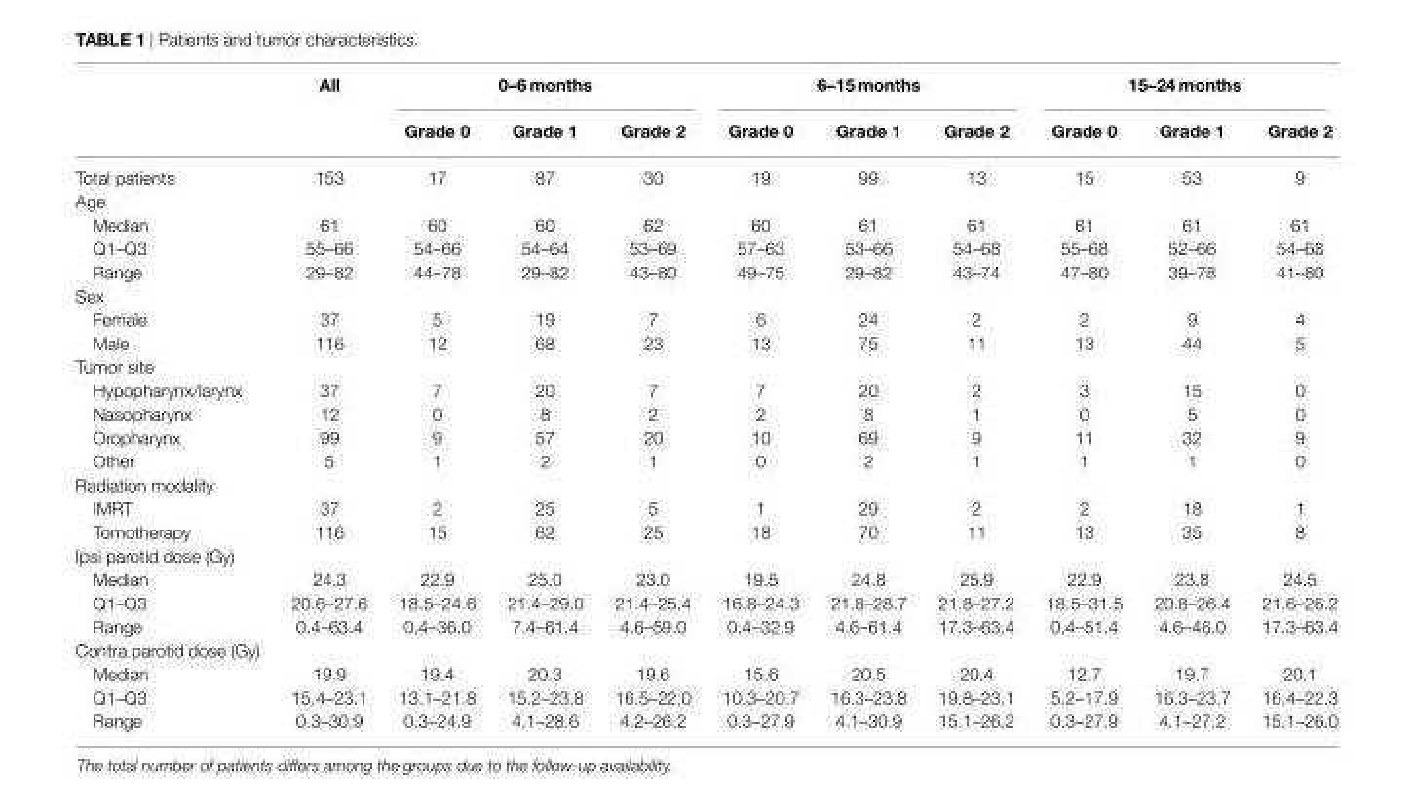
<table><thead><tr><td rowspan="2"></td><td rowspan="2">All</td><td colspan="3">0–6 months</td><td colspan="3">6–15 months</td><td colspan="3">15–24 months</td></tr><tr><td>Grade 0</td><td>Grade 1</td><td>Grade 2</td><td>Grade 0</td><td>Grade 1</td><td>Grade 2</td><td>Grade 0</td><td>Grade 1</td><td>Grade 2</td></tr></thead><tbody><tr><td>Total patients</td><td>153</td><td>17</td><td>87</td><td>30</td><td>19</td><td>99</td><td>13</td><td>15</td><td>53</td><td>9</td></tr><tr><td colspan="11">Age</td></tr><tr><td>Median</td><td>61</td><td>60</td><td>60</td><td>62</td><td>60</td><td>61</td><td>61</td><td>61</td><td>61</td><td>61</td></tr><tr><td>Q1–Q3</td><td>55–66</td><td>54–66</td><td>54–64</td><td>53–69</td><td>57–63</td><td>53–66</td><td>54–68</td><td>55–68</td><td>52–66</td><td>54–68</td></tr><tr><td>Range</td><td>29–82</td><td>44–78</td><td>29–82</td><td>43–80</td><td>49–75</td><td>29–82</td><td>43–74</td><td>47–80</td><td>39–78</td><td>41–80</td></tr><tr><td colspan="11">Sex</td></tr><tr><td>Female</td><td>37</td><td>5</td><td>19</td><td>7</td><td>6</td><td>24</td><td>2</td><td>2</td><td>9</td><td>4</td></tr><tr><td>Male</td><td>116</td><td>12</td><td>68</td><td>23</td><td>13</td><td>75</td><td>11</td><td>13</td><td>44</td><td>5</td></tr><tr><td colspan="11">Tumor site</td></tr><tr><td>Hypopharynx/larynx</td><td>37</td><td>7</td><td>20</td><td>7</td><td>7</td><td>20</td><td>2</td><td>3</td><td>15</td><td>0</td></tr><tr><td>Nasopharynx</td><td>12</td><td>0</td><td>8</td><td>2</td><td>2</td><td>8</td><td>1</td><td>0</td><td>5</td><td>0</td></tr><tr><td>Oropharynx</td><td>99</td><td>9</td><td>57</td><td>20</td><td>10</td><td>69</td><td>9</td><td>11</td><td>32</td><td>9</td></tr><tr><td>Other</td><td>5</td><td>1</td><td>2</td><td>1</td><td>0</td><td>2</td><td>1</td><td>1</td><td>1</td><td>0</td></tr><tr><td colspan="11">Radiation modality</td></tr><tr><td>IMRT</td><td>37</td><td>2</td><td>25</td><td>5</td><td>1</td><td>29</td><td>2</td><td>2</td><td>18</td><td>1</td></tr><tr><td>Tomotherapy</td><td>116</td><td>15</td><td>62</td><td>25</td><td>18</td><td>70</td><td>11</td><td>13</td><td>35</td><td>8</td></tr><tr><td colspan="11">Ipsi parotid dose (Gy)</td></tr><tr><td>Median</td><td>24.3</td><td>22.9</td><td>25.0</td><td>23.0</td><td>19.5</td><td>24.8</td><td>25.9</td><td>22.9</td><td>23.8</td><td>24.5</td></tr><tr><td>Q1–Q3</td><td>20.6–27.6</td><td>18.5–24.6</td><td>21.4–29.0</td><td>21.4–25.4</td><td>16.8–24.3</td><td>21.8–28.7</td><td>21.8–27.2</td><td>18.5–31.5</td><td>20.8–26.4</td><td>21.6–26.2</td></tr><tr><td>Range</td><td>0.4–63.4</td><td>0.4–36.0</td><td>7.4–61.4</td><td>4.6–59.0</td><td>0.4–32.9</td><td>4.6–61.4</td><td>17.3–63.4</td><td>0.4–51.4</td><td>4.6–46.0</td><td>17.3–63.4</td></tr><tr><td colspan="11">Contra parotid dose (Gy)</td></tr><tr><td>Median</td><td>19.9</td><td>19.4</td><td>20.3</td><td>19.6</td><td>15.6</td><td>20.5</td><td>20.4</td><td>12.7</td><td>19.7</td><td>20.1</td></tr><tr><td>Q1–Q3</td><td>15.4–23.1</td><td>13.1–21.8</td><td>15.2–23.8</td><td>16.5–22.0</td><td>10.3–20.7</td><td>16.3–23.8</td><td>19.8–23.1</td><td>5.2–17.9</td><td>16.3–23.7</td><td>16.4–22.3</td></tr><tr><td>Range</td><td>0.3–30.9</td><td>0.3–24.9</td><td>4.1–28.6</td><td>4.2–26.2</td><td>0.3–27.9</td><td>4.1–30.9</td><td>15.1–26.2</td><td>0.3–27.9</td><td>4.1–27.2</td><td>15.1–26.0</td></tr></tbody></table>